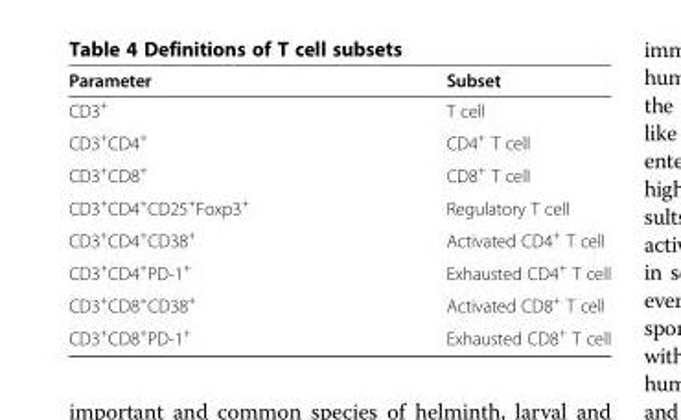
<table><thead><tr><td>Parameter</td><td>Subset</td></tr></thead><tbody><tr><td>CD3<sup>+</sup></td><td>T cell</td></tr><tr><td>CD3<sup>+</sup>CD4<sup>+</sup></td><td>CD4<sup>+</sup> T cell</td></tr><tr><td>CD3<sup>+</sup>CD8<sup>+</sup></td><td>CD8<sup>+</sup> T cell</td></tr><tr><td>CD3<sup>+</sup>CD4<sup>+</sup>CD25<sup>+</sup>Foxp3<sup>+</sup></td><td>Regulatory T cell</td></tr><tr><td>CD3<sup>+</sup>CD4<sup>+</sup>CD38<sup>+</sup></td><td>Activated CD4<sup>+</sup> T cell</td></tr><tr><td>CD3<sup>+</sup>CD4<sup>+</sup>PD-1<sup>+</sup></td><td>Exhausted CD4<sup>+</sup> T cell</td></tr><tr><td>CD3<sup>+</sup>CD8<sup>+</sup>CD38<sup>+</sup></td><td>Activated CD8<sup>+</sup> T cell</td></tr><tr><td>CD3<sup>+</sup>CD8<sup>+</sup>PD-1<sup>+</sup></td><td>Exhausted CD8<sup>+</sup> T cell</td></tr></tbody></table>